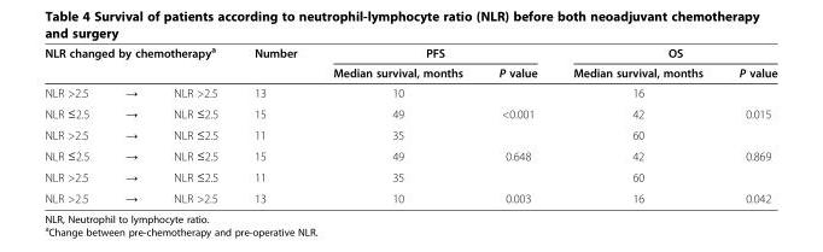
<table><thead><tr><td rowspan="2" colspan="3">NLR changed by chemotherapy<sup>a</sup></td><td rowspan="3">Number 13</td><td colspan="2">PFS</td><td colspan="2">OS</td></tr><tr><td rowspan="2">Median survival, months 10</td><td rowspan="2">P value</td><td rowspan="2">Median survival, months 16</td><td rowspan="2">P value</td></tr><tr><td>NLR &gt;2.5</td><td>→</td><td>NLR &gt;2.5</td></tr></thead><tbody><tr><td>NLR ≤2.5</td><td>→</td><td>NLR ≤2.5</td><td>15</td><td>49</td><td>&lt;0.001</td><td>42</td><td>0.015</td></tr><tr><td>NLR &gt;2.5</td><td>→</td><td>NLR ≤2.5</td><td>11</td><td>35</td><td></td><td>60</td><td></td></tr><tr><td>NLR ≤2.5</td><td>→</td><td>NLR ≤2.5</td><td>15</td><td>49</td><td>0.648</td><td>42</td><td>0.869</td></tr><tr><td>NLR &gt;2.5</td><td>→</td><td>NLR ≤2.5</td><td>11</td><td>35</td><td></td><td>60</td><td></td></tr><tr><td>NLR &gt;2.5</td><td>→</td><td>NLR &gt;2.5</td><td>13</td><td>10</td><td>0.003</td><td>16</td><td>0.042</td></tr></tbody></table>